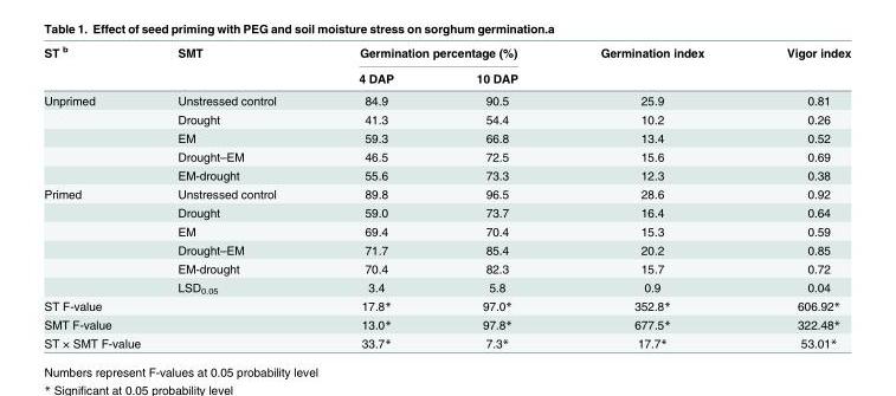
<table><thead><tr><td rowspan="2">ST <sup>b</sup></td><td rowspan="2">SMT</td><td colspan="2">Germination percentage (%)</td><td rowspan="2">Germination index</td><td rowspan="2">Vigor index</td></tr><tr><td>4 DAP</td><td>10 DAP</td></tr></thead><tbody><tr><td rowspan="5">Unprimed</td><td>Unstressed control</td><td>84.9</td><td>90.5</td><td>25.9</td><td>0.81</td></tr><tr><td>Drought</td><td>41.3</td><td>54.4</td><td>10.2</td><td>0.26</td></tr><tr><td>EM</td><td>59.3</td><td>66.8</td><td>13.4</td><td>0.52</td></tr><tr><td>Drought–EM</td><td>46.5</td><td>72.5</td><td>15.6</td><td>0.69</td></tr><tr><td>EM-drought</td><td>55.6</td><td>73.3</td><td>12.3</td><td>0.38</td></tr><tr><td rowspan="6">Primed</td><td>Unstressed control</td><td>89.8</td><td>96.5</td><td>28.6</td><td>0.92</td></tr><tr><td>Drought</td><td>59.0</td><td>73.7</td><td>16.4</td><td>0.64</td></tr><tr><td>EM</td><td>69.4</td><td>70.4</td><td>15.3</td><td>0.59</td></tr><tr><td>Drought–EM</td><td>71.7</td><td>85.4</td><td>20.2</td><td>0.85</td></tr><tr><td>EM-drought</td><td>70.4</td><td>82.3</td><td>15.7</td><td>0.72</td></tr><tr><td>LSD<sub>0.05</sub></td><td>3.4</td><td>5.8</td><td>0.9</td><td>0.04</td></tr><tr><td colspan="2">ST F-value</td><td>17.8*</td><td>97.0*</td><td>352.8*</td><td>606.92*</td></tr><tr><td colspan="2">SMT F-value</td><td>13.0*</td><td>97.8*</td><td>677.5*</td><td>322.48*</td></tr><tr><td colspan="2">ST × SMT F-value</td><td>33.7*</td><td>7.3*</td><td>17.7*</td><td>53.01*</td></tr></tbody></table>